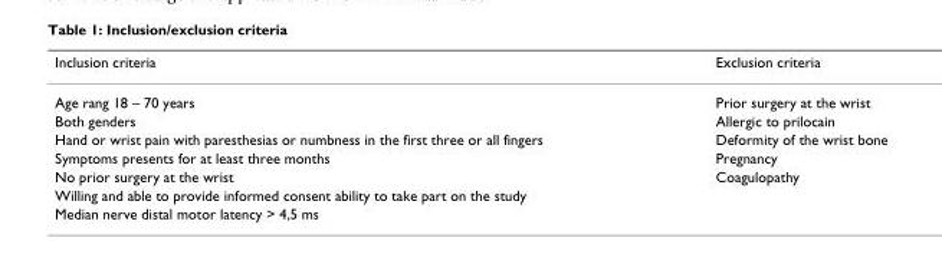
<table><thead><tr><td>Inclusion criteria</td><td>Exclusion criteria</td></tr></thead><tbody><tr><td>Age rang 18 – 70 years</td><td>Prior surgery at the wrist</td></tr><tr><td>Both genders</td><td>Allergic to prilocain</td></tr><tr><td>Hand or wrist pain with paresthesias or numbness in the first three or all fingers</td><td>Deformity of the wrist bone</td></tr><tr><td>Symptoms presents for at least three months</td><td>Pregnancy</td></tr><tr><td>No prior surgery at the wrist</td><td>Coagulopathy</td></tr><tr><td colspan="2">Willing and able to provide informed consent ability to take part on the study</td></tr><tr><td>Median nerve distal motor latency &gt; 4,5 ms</td><td></td></tr></tbody></table>